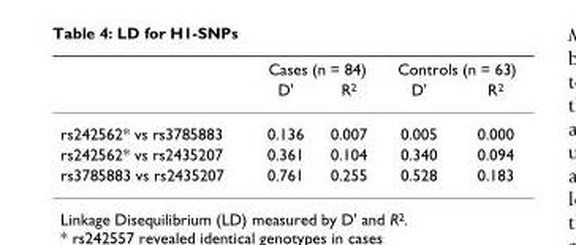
<table><thead><tr><td rowspan="2"></td><td colspan="2">Cases (n = 84)</td><td colspan="2">Controls (n = 63)</td></tr><tr><td>D&#x27;</td><td>R<sup>2</sup></td><td>D&#x27;</td><td>R<sup>2</sup></td></tr></thead><tbody><tr><td>rs242562* vs rs3785883</td><td>0.136</td><td>0.007</td><td>0.005</td><td>0.000</td></tr><tr><td>rs242562* vs rs2435207</td><td>0.361</td><td>0.104</td><td>0.340</td><td>0.094</td></tr><tr><td>rs3785883 vs rs2435207</td><td>0.761</td><td>0.255</td><td>0.528</td><td>0.183</td></tr></tbody></table>